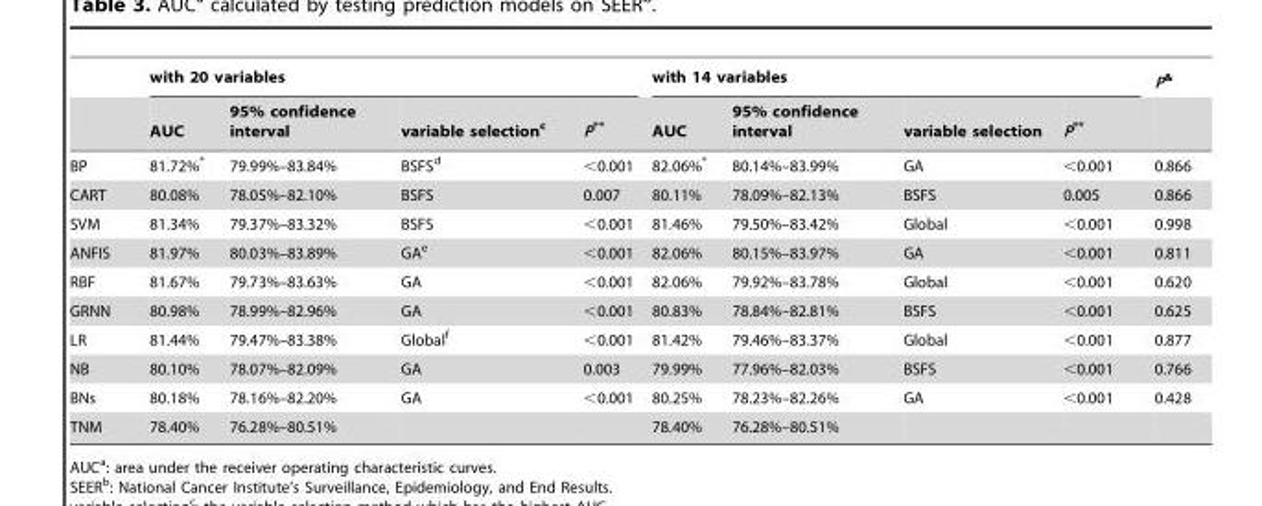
<table><thead><tr><td rowspan="2"></td><td colspan="4">with 20 variables</td><td colspan="4">with 14 variables</td><td rowspan="2">P&amp;</td></tr><tr><td>AUC</td><td>95% confidence interval</td><td>variable selection<sup>c</sup></td><td>P**</td><td>AUC</td><td>95% confidence interval</td><td>variable selection</td><td>P**</td></tr></thead><tbody><tr><td>BP</td><td>81.72%*</td><td>79.99%–83.84%</td><td>BSFS<sup>d</sup></td><td>&lt;0.001</td><td>82.06%*</td><td>80.14%–83.99%</td><td>GA</td><td>&lt;0.001</td><td>0.866</td></tr><tr><td>CART</td><td>80.08%</td><td>78.05%–82.10%</td><td>BSFS</td><td>0.007</td><td>80.11%</td><td>78.09%–82.13%</td><td>BSFS</td><td>0.005</td><td>0.866</td></tr><tr><td>SVM</td><td>81.34%</td><td>79.37%–83.32%</td><td>BSFS</td><td>&lt;0.001</td><td>81.46%</td><td>79.50%–83.42%</td><td>Global</td><td>&lt;0.001</td><td>0.998</td></tr><tr><td>ANFIS</td><td>81.97%</td><td>80.03%–83.89%</td><td>GA<sup>e</sup></td><td>&lt;0.001</td><td>82.06%</td><td>80.15%–83.97%</td><td>GA</td><td>&lt;0.001</td><td>0.811</td></tr><tr><td>RBF</td><td>81.67%</td><td>79.73%–83.63%</td><td>GA</td><td>&lt;0.001</td><td>82.06%</td><td>79.92%–83.78%</td><td>Global</td><td>&lt;0.001</td><td>0.620</td></tr><tr><td>GRNN</td><td>80.98%</td><td>78.99%–82.96%</td><td>GA</td><td>&lt;0.001</td><td>80.83%</td><td>78.84%–82.81%</td><td>BSFS</td><td>&lt;0.001</td><td>0.625</td></tr><tr><td>LR</td><td>81.44%</td><td>79.47%–83.38%</td><td>Global<sup>f</sup></td><td>&lt;0.001</td><td>81.42%</td><td>79.46%–83.37%</td><td>Global</td><td>&lt;0.001</td><td>0.877</td></tr><tr><td>NB</td><td>80.10%</td><td>78.07%–82.09%</td><td>GA</td><td>0.003</td><td>79.99%</td><td>77.96%–82.03%</td><td>BSFS</td><td>&lt;0.001</td><td>0.766</td></tr><tr><td>BNs</td><td>80.18%</td><td>78.16%–82.20%</td><td>GA</td><td>&lt;0.001</td><td>80.25%</td><td>78.23%–82.26%</td><td>GA</td><td>&lt;0.001</td><td>0.428</td></tr><tr><td>TNM</td><td>78.40%</td><td>76.28%–80.51%</td><td></td><td></td><td>78.40%</td><td>76.28%–80.51%</td><td></td><td></td><td></td></tr></tbody></table>